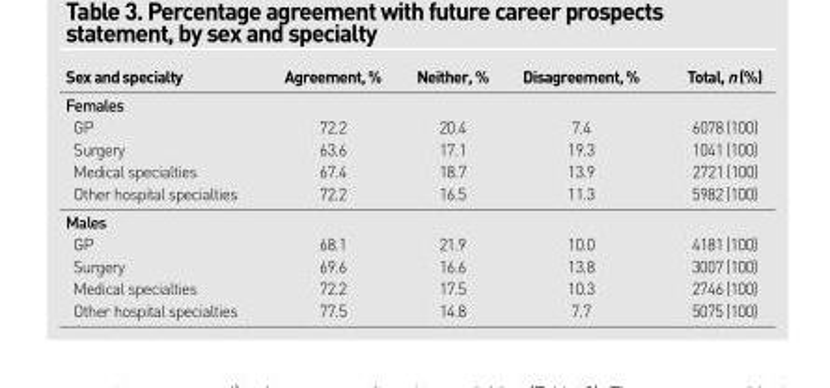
<table><thead><tr><td>Sex and specialty</td><td>Agreement, %</td><td>Neither, %</td><td>Disagreement, %</td><td>Total, n (%)</td></tr></thead><tbody><tr><td colspan="5">Females</td></tr><tr><td>GP</td><td>72.2</td><td>20.4</td><td>7.4</td><td>6078 (100)</td></tr><tr><td>Surgery</td><td>63.6</td><td>17.1</td><td>19.3</td><td>1041 (100)</td></tr><tr><td>Medical specialties</td><td>67.4</td><td>18.7</td><td>13.9</td><td>2721 (100)</td></tr><tr><td>Other hospital specialties</td><td>72.2</td><td>16.5</td><td>11.3</td><td>5982 (100)</td></tr><tr><td colspan="5">Males</td></tr><tr><td>GP</td><td>68.1</td><td>21.9</td><td>10.0</td><td>4181 (100)</td></tr><tr><td>Surgery</td><td>69.6</td><td>16.6</td><td>13.8</td><td>3007 (100)</td></tr><tr><td>Medical specialties</td><td>72.2</td><td>17.5</td><td>10.3</td><td>2746 (100)</td></tr><tr><td>Other hospital specialties</td><td>77.5</td><td>14.8</td><td>7.7</td><td>5075 (100)</td></tr></tbody></table>